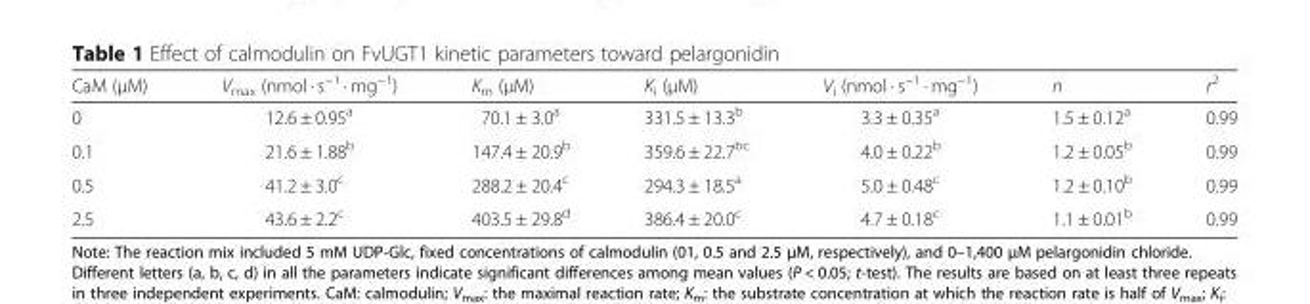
<table><thead><tr><td>CaM (μM)</td><td>V<sub>max</sub> (nmol · s<sup>−1</sup> · mg<sup>−1</sup>)</td><td>K<sub>m</sub> (μM)</td><td>K<sub>i</sub> (μM)</td><td>V<sub>i</sub> (nmol · s<sup>−1</sup> · mg<sup>−1</sup>)</td><td>n</td><td>r<sup>2</sup></td></tr></thead><tbody><tr><td>0</td><td>12.6 ± 0.95<sup>a</sup></td><td>70.1 ± 3.0<sup>a</sup></td><td>331.5 ± 13.3<sup>b</sup></td><td>3.3 ± 0.35<sup>a</sup></td><td>1.5 ± 0.12<sup>a</sup></td><td>0.99</td></tr><tr><td>0.1</td><td>21.6 ± 1.88<sup>b</sup></td><td>147.4 ± 20.9<sup>b</sup></td><td>359.6 ± 22.7<sup>bc</sup></td><td>4.0 ± 0.22<sup>b</sup></td><td>1.2 ± 0.05<sup>b</sup></td><td>0.99</td></tr><tr><td>0.5</td><td>41.2 ± 3.0<sup>c</sup></td><td>288.2 ± 20.4<sup>c</sup></td><td>294.3 ± 18.5<sup>a</sup></td><td>5.0 ± 0.48<sup>c</sup></td><td>1.2 ± 0.10<sup>b</sup></td><td>0.99</td></tr><tr><td>2.5</td><td>43.6 ± 2.2<sup>c</sup></td><td>403.5 ± 29.8<sup>d</sup></td><td>386.4 ± 20.0<sup>c</sup></td><td>4.7 ± 0.18<sup>c</sup></td><td>1.1 ± 0.01<sup>b</sup></td><td>0.99</td></tr></tbody></table>